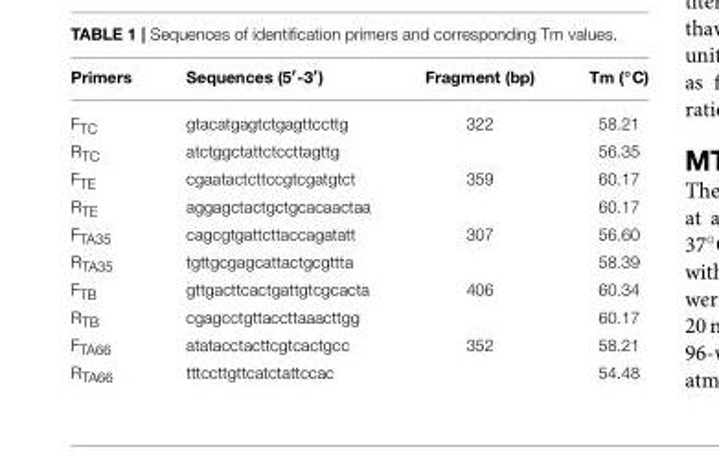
<table><thead><tr><td>Primers</td><td>Sequences (5′-3′)</td><td>Fragment (bp)</td><td>Tm (◦C)</td></tr></thead><tbody><tr><td>F<sub>TC</sub></td><td>gtacatgagtctgagttccttg</td><td>322</td><td>58.21</td></tr><tr><td>R<sub>TC</sub></td><td>atctggctattctccttagttg</td><td></td><td>56.35</td></tr><tr><td>F<sub>TE</sub></td><td>cgaatactcttccgtcgatgtct</td><td>359</td><td>60.17</td></tr><tr><td>R<sub>TE</sub></td><td>aggagctactgctgcacaactaa</td><td></td><td>60.17</td></tr><tr><td>F<sub>TA35</sub></td><td>cagcgtgattcttaccagatatt</td><td>307</td><td>56.60</td></tr><tr><td>R<sub>TA35</sub></td><td>tgttgcgagcattactgcgttta</td><td></td><td>58.39</td></tr><tr><td>F<sub>TB</sub></td><td>gttgacttcactgattgtcgcacta</td><td>406</td><td>60.34</td></tr><tr><td>R<sub>TB</sub></td><td>cgagcctgttaccttaaacttgg</td><td></td><td>60.17</td></tr><tr><td>F<sub>TA66</sub></td><td>atatacctacttcgtcactgcc</td><td>352</td><td>58.21</td></tr><tr><td>R<sub>TA66</sub></td><td>tttccttgttcatctattccac</td><td></td><td>54.48</td></tr></tbody></table>